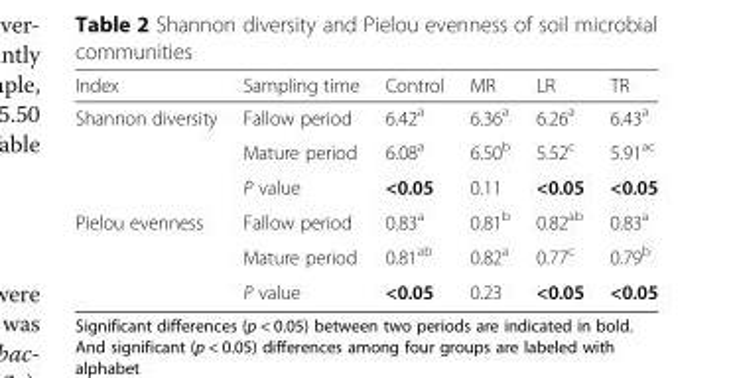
<table><thead><tr><td>Index</td><td>Sampling time</td><td>Control</td><td>MR</td><td>LR</td><td>TR</td></tr></thead><tbody><tr><td rowspan="3">Shannon diversity</td><td>Fallow period</td><td>6.42<sup>a</sup></td><td>6.36<sup>a</sup></td><td>6.26<sup>a</sup></td><td>6.43<sup>a</sup></td></tr><tr><td>Mature period</td><td>6.08<sup>a</sup></td><td>6.50<sup>b</sup></td><td>5.52<sup>c</sup></td><td>5.91<sup>ac</sup></td></tr><tr><td>P value</td><td>&lt;0.05</td><td>0.11</td><td>&lt;0.05</td><td>&lt;0.05</td></tr><tr><td rowspan="3">Pielou evenness</td><td>Fallow period</td><td>0.83<sup>a</sup></td><td>0.81<sup>b</sup></td><td>0.82<sup>ab</sup></td><td>0.83<sup>a</sup></td></tr><tr><td>Mature period</td><td>0.81<sup>ab</sup></td><td>0.82<sup>a</sup></td><td>0.77<sup>c</sup></td><td>0.79<sup>b</sup></td></tr><tr><td>P value</td><td>&lt;0.05</td><td>0.23</td><td>&lt;0.05</td><td>&lt;0.05</td></tr></tbody></table>